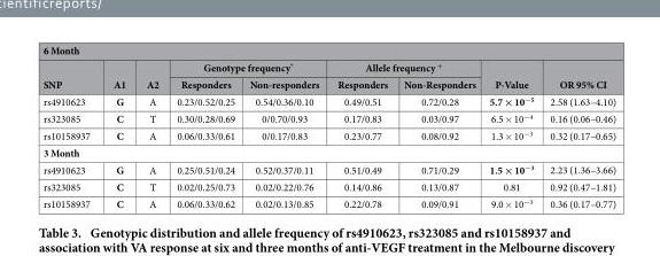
<table><thead><tr><td colspan="9">6 Month</td></tr><tr><td rowspan="2">SNP</td><td rowspan="2">A1</td><td rowspan="2">A2</td><td colspan="2">Genotype frequency*</td><td colspan="2">Allele frequency <sup>+</sup></td><td rowspan="2">P-Value</td><td rowspan="2">OR 95% CI</td></tr><tr><td>Responders</td><td>Non-responders</td><td>Responders</td><td>Non-Responders</td></tr></thead><tbody><tr><td>rs4910623</td><td>G</td><td>A</td><td>0.23/0.52/0.25</td><td>0.54/0.36/0.10</td><td>0.49/0.51</td><td>0.72/0.28</td><td>5.7 × 10<sup>−5</sup></td><td>2.58 (1.63–4.10)</td></tr><tr><td>rs323085</td><td>C</td><td>T</td><td>0.30/0.28/0.69</td><td>0/0.70/0.93</td><td>0.17/0.83</td><td>0.03/0.97</td><td>6.5 × 10<sup>−4</sup></td><td>0.16 (0.06–0.46)</td></tr><tr><td>rs10158937</td><td>C</td><td>A</td><td>0.06/0.33/0.61</td><td>0/0.17/0.83</td><td>0.23/0.77</td><td>0.08/0.92</td><td>1.3 × 10<sup>−3</sup></td><td>0.32 (0.17–0.65)</td></tr><tr><td colspan="9">3 Month</td></tr><tr><td>rs4910623</td><td>G</td><td>A</td><td>0.25/0.51/0.24</td><td>0.52/0.37/0.11</td><td>0.51/0.49</td><td>0.71/0.29</td><td>1.5 × 10<sup>−3</sup></td><td>2.23 (1.36–3.66)</td></tr><tr><td>rs323085</td><td>C</td><td>T</td><td>0.02/0.25/0.73</td><td>0.02/0.22/0.76</td><td>0.14/0.86</td><td>0.13/0.87</td><td>0.81</td><td>0.92 (0.47–1.81)</td></tr><tr><td>rs10158937</td><td>C</td><td>A</td><td>0.06/0.33/0.62</td><td>0.02/0.13/0.85</td><td>0.22/0.78</td><td>0.09/0.91</td><td>9.0 × 10<sup>−3</sup></td><td>0.36 (0.17–0.77)</td></tr></tbody></table>